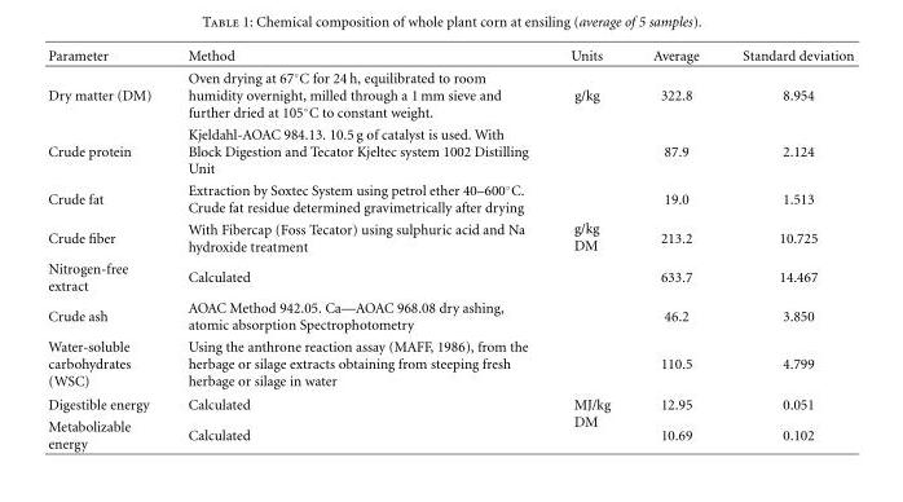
<table><thead><tr><td>Parameter</td><td>Method</td><td>Units</td><td>Average</td><td>Standard deviation</td></tr></thead><tbody><tr><td>Dry matter (DM)</td><td>Oven drying at 67◦C for 24 h, equilibrated to room humidity overnight, milled through a 1 mm sieve and further dried at 105◦C to constant weight.</td><td>g/kg</td><td>322.8</td><td>8.954</td></tr><tr><td>Crude protein</td><td>Kjeldahl-AOAC 984.13. 10.5 g of catalyst is used. With Block Digestion and Tecator Kjeltec system 1002 Distilling Unit</td><td rowspan="6">g/kg DM</td><td>87.9</td><td>2.124</td></tr><tr><td>Crude fat</td><td>Extraction by Soxtec System using petrol ether 40–600◦C. Crude fat residue determined gravimetrically after drying</td><td>19.0</td><td>1.513</td></tr><tr><td>Crude fiber</td><td>With Fibercap (Foss Tecator) using sulphuric acid and Na hydroxide treatment</td><td>213.2</td><td>10.725</td></tr><tr><td>Nitrogen-free extract</td><td>Calculated</td><td>633.7</td><td>14.467</td></tr><tr><td>Crude ash</td><td>AOAC Method 942.05. Ca—AOAC 968.08 dry ashing, atomic absorption Spectrophotometry</td><td>46.2</td><td>3.850</td></tr><tr><td>Water-soluble carbohydrates (WSC)</td><td>Using the anthrone reaction assay (MAFF, 1986), from the herbage or silage extracts obtaining from steeping fresh herbage or silage in water</td><td>110.5</td><td>4.799</td></tr><tr><td>Digestible energy</td><td>Calculated</td><td rowspan="2">MJ/kg DM</td><td>12.95</td><td>0.051</td></tr><tr><td>Metabolizable energy</td><td>Calculated</td><td>10.69</td><td>0.102</td></tr></tbody></table>